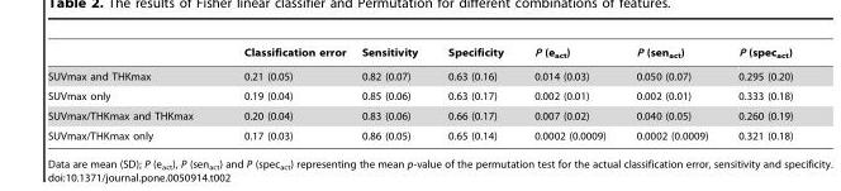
<table><thead><tr><td></td><td>Classification error</td><td>Sensitivity</td><td>Specificity</td><td>P (e<sub>act</sub>)</td><td>P (sen<sub>act</sub>)</td><td>P (spec<sub>act</sub>)</td></tr></thead><tbody><tr><td>SUVmax and THKmax</td><td>0.21 (0.05)</td><td>0.82 (0.07)</td><td>0.63 (0.16)</td><td>0.014 (0.03)</td><td>0.050 (0.07)</td><td>0.295 (0.20)</td></tr><tr><td>SUVmax only</td><td>0.19 (0.04)</td><td>0.85 (0.06)</td><td>0.63 (0.17)</td><td>0.002 (0.01)</td><td>0.002 (0.01)</td><td>0.333 (0.18)</td></tr><tr><td>SUVmax/THKmax and THKmax</td><td>0.20 (0.04)</td><td>0.83 (0.06)</td><td>0.66 (0.17)</td><td>0.007 (0.02)</td><td>0.040 (0.05)</td><td>0.260 (0.19)</td></tr><tr><td>SUVmax/THKmax only</td><td>0.17 (0.03)</td><td>0.86 (0.05)</td><td>0.65 (0.14)</td><td>0.0002 (0.0009)</td><td>0.0002 (0.0009)</td><td>0.321 (0.18)</td></tr></tbody></table>